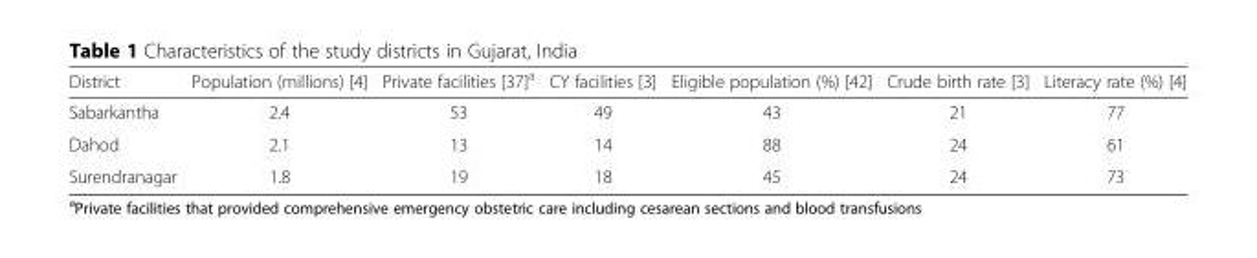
<table><thead><tr><td>District</td><td>Population (millions) [4]</td><td>Private facilities [37]<sup>a</sup></td><td>CY facilities [3]</td><td>Eligible population (%) [42]</td><td>Crude birth rate [3]</td><td>Literacy rate (%) [4]</td></tr></thead><tbody><tr><td>Sabarkantha</td><td>2.4</td><td>53</td><td>49</td><td>43</td><td>21</td><td>77</td></tr><tr><td>Dahod</td><td>2.1</td><td>13</td><td>14</td><td>88</td><td>24</td><td>61</td></tr><tr><td>Surendranagar</td><td>1.8</td><td>19</td><td>18</td><td>45</td><td>24</td><td>73</td></tr></tbody></table>